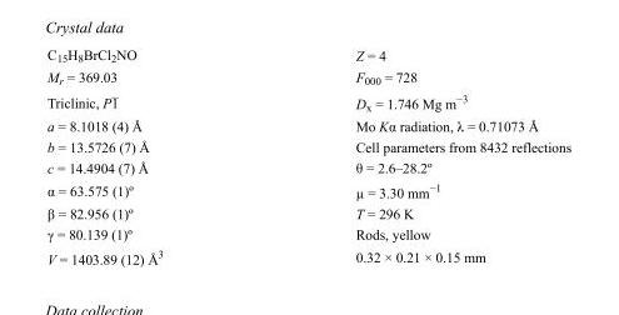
<table><tbody><tr><td>C<sub>15</sub>H<sub>8</sub>BrCl<sub>2</sub>NO</td><td>Z = 4</td></tr><tr><td>M<sub>r</sub> = 369.03</td><td>F000 = 728</td></tr><tr><td>Triclinic, P1</td><td>D<sub>x</sub> = 1.746 Mg m<sup>−3</sup></td></tr><tr><td>a = 8.1018 (4) Å</td><td>Mo Kα radiation, λ = 0.71073 Å</td></tr><tr><td>b = 13.5726 (7) Å</td><td>Cell parameters from 8432 reflections</td></tr><tr><td>c = 14.4904 (7) Å</td><td>θ = 2.6–28.2º</td></tr><tr><td>α = 63.575 (1)º</td><td>µ = 3.30 mm<sup>−1</sup></td></tr><tr><td>β = 82.956 (1)º</td><td>T = 296 K</td></tr><tr><td>γ = 80.139 (1)º</td><td>Rods, yellow</td></tr><tr><td>V = 1403.89 (12) Å<sup>3</sup></td><td>0.32 × 0.21 × 0.15 mm</td></tr></tbody></table>